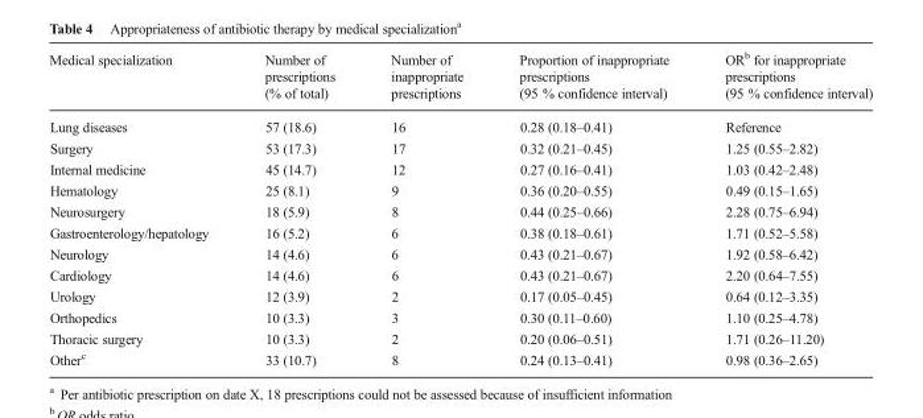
<table><thead><tr><td>Medical specialization</td><td>Number of prescriptions (% of total)</td><td>Number of inappropriate prescriptions</td><td>Proportion of inappropriate prescriptions (95 % confidence interval)</td><td>OR<sup>b</sup> for inappropriate prescriptions (95 % confidence interval)</td></tr></thead><tbody><tr><td>Lung diseases</td><td>57 (18.6)</td><td>16</td><td>0.28 (0.18–0.41)</td><td>Reference</td></tr><tr><td>Surgery</td><td>53 (17.3)</td><td>17</td><td>0.32 (0.21–0.45)</td><td>1.25 (0.55–2.82)</td></tr><tr><td>Internal medicine</td><td>45 (14.7)</td><td>12</td><td>0.27 (0.16–0.41)</td><td>1.03 (0.42–2.48)</td></tr><tr><td>Hematology</td><td>25 (8.1)</td><td>9</td><td>0.36 (0.20–0.55)</td><td>0.49 (0.15–1.65)</td></tr><tr><td>Neurosurgery</td><td>18 (5.9)</td><td>8</td><td>0.44 (0.25–0.66)</td><td>2.28 (0.75–6.94)</td></tr><tr><td>Gastroenterology/hepatology</td><td>16 (5.2)</td><td>6</td><td>0.38 (0.18–0.61)</td><td>1.71 (0.52–5.58)</td></tr><tr><td>Neurology</td><td>14 (4.6)</td><td>6</td><td>0.43 (0.21–0.67)</td><td>1.92 (0.58–6.42)</td></tr><tr><td>Cardiology</td><td>14 (4.6)</td><td>6</td><td>0.43 (0.21–0.67)</td><td>2.20 (0.64–7.55)</td></tr><tr><td>Urology</td><td>12 (3.9)</td><td>2</td><td>0.17 (0.05–0.45)</td><td>0.64 (0.12–3.35)</td></tr><tr><td>Orthopedics</td><td>10 (3.3)</td><td>3</td><td>0.30 (0.11–0.60)</td><td>1.10 (0.25–4.78)</td></tr><tr><td>Thoracic surgery</td><td>10 (3.3)</td><td>2</td><td>0.20 (0.06–0.51)</td><td>1.71 (0.26–11.20)</td></tr><tr><td>Other<sup>c</sup></td><td>33 (10.7)</td><td>8</td><td>0.24 (0.13–0.41)</td><td>0.98 (0.36–2.65)</td></tr></tbody></table>